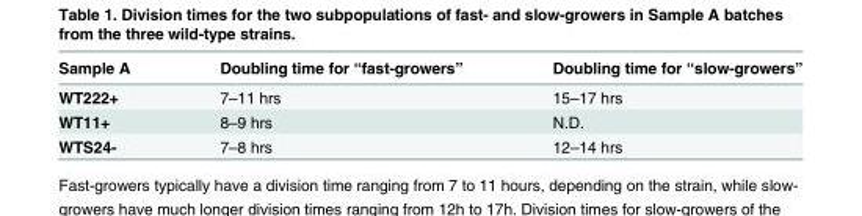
<table><thead><tr><td>Sample A</td><td>Doubling time for “fast-growers”</td><td>Doubling time for “slow-growers”</td></tr></thead><tbody><tr><td>WT222+</td><td>7–11 hrs</td><td>15–17 hrs</td></tr><tr><td>WT11+</td><td>8–9 hrs</td><td>N.D.</td></tr><tr><td>WTS24-</td><td>7–8 hrs</td><td>12–14 hrs</td></tr></tbody></table>